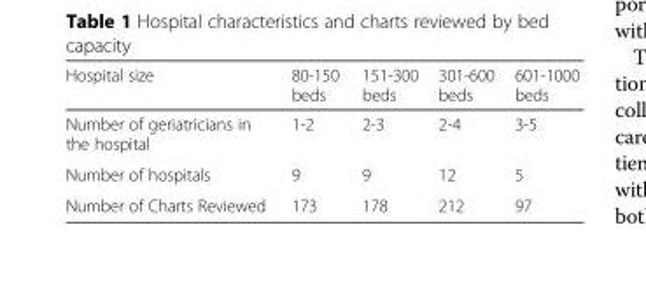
<table><thead><tr><td>Hospital size</td><td>80-150 beds</td><td>151-300 beds</td><td>301-600 beds</td><td>601-1000 beds</td></tr></thead><tbody><tr><td>Number of geriatricians in the hospital</td><td>1-2</td><td>2-3</td><td>2-4</td><td>3-5</td></tr><tr><td>Number of hospitals</td><td>9</td><td>9</td><td>12</td><td>5</td></tr><tr><td>Number of Charts Reviewed</td><td>173</td><td>178</td><td>212</td><td>97</td></tr></tbody></table>